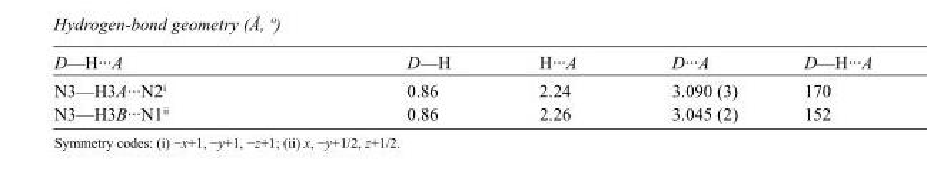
<table><tbody><tr><td>D—H···A</td><td>D—H</td><td>H···A</td><td>D···A</td><td>D—H···A</td></tr><tr><td>N3—H3A···N2<sup>i</sup></td><td>0.86</td><td>2.24</td><td>3.090 (3)</td><td>170</td></tr><tr><td>N3—H3B···N1<sup>ii</sup></td><td>0.86</td><td>2.26</td><td>3.045 (2)</td><td>152</td></tr></tbody></table>